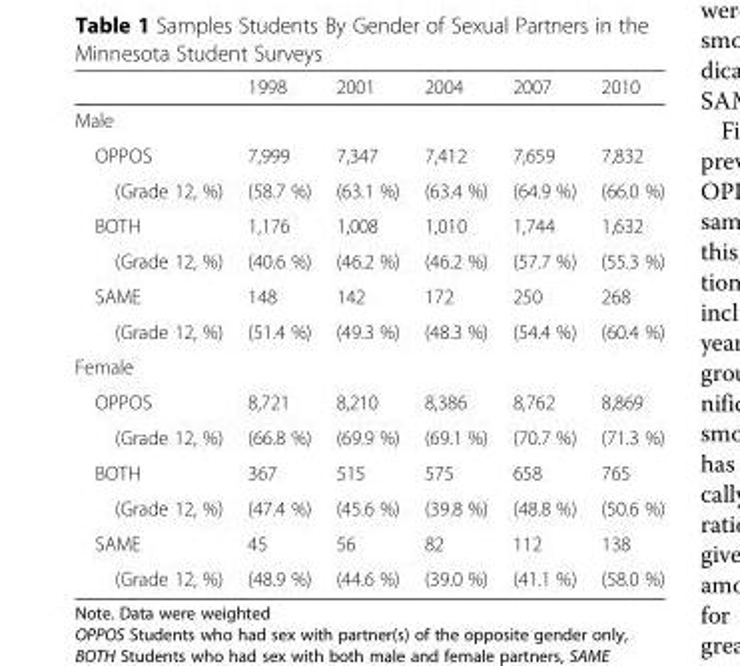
<table><thead><tr><td></td><td>1998</td><td>2001</td><td>2004</td><td>2007</td><td>2010</td></tr></thead><tbody><tr><td colspan="6">Male</td></tr><tr><td>OPPOS</td><td>7,999</td><td>7,347</td><td>7,412</td><td>7,659</td><td>7,832</td></tr><tr><td>(Grade 12, %)</td><td>(58.7 %)</td><td>(63.1 %)</td><td>(63.4 %)</td><td>(64.9 %)</td><td>(66.0 %)</td></tr><tr><td>BOTH</td><td>1,176</td><td>1,008</td><td>1,010</td><td>1,744</td><td>1,632</td></tr><tr><td>(Grade 12, %)</td><td>(40.6 %)</td><td>(46.2 %)</td><td>(46.2 %)</td><td>(57.7 %)</td><td>(55.3 %)</td></tr><tr><td>SAME</td><td>148</td><td>142</td><td>172</td><td>250</td><td>268</td></tr><tr><td>(Grade 12, %)</td><td>(51.4 %)</td><td>(49.3 %)</td><td>(48.3 %)</td><td>(54.4 %)</td><td>(60.4 %)</td></tr><tr><td colspan="6">Female</td></tr><tr><td>OPPOS</td><td>8,721</td><td>8,210</td><td>8,386</td><td>8,762</td><td>8,869</td></tr><tr><td>(Grade 12, %)</td><td>(66.8 %)</td><td>(69.9 %)</td><td>(69.1 %)</td><td>(70.7 %)</td><td>(71.3 %)</td></tr><tr><td>BOTH</td><td>367</td><td>515</td><td>575</td><td>658</td><td>765</td></tr><tr><td>(Grade 12, %)</td><td>(47.4 %)</td><td>(45.6 %)</td><td>(39.8 %)</td><td>(48.8 %)</td><td>(50.6 %)</td></tr><tr><td>SAME</td><td>45</td><td>56</td><td>82</td><td>112</td><td>138</td></tr><tr><td>(Grade 12, %)</td><td>(48.9 %)</td><td>(44.6 %)</td><td>(39.0 %)</td><td>(41.1 %)</td><td>(58.0 %)</td></tr></tbody></table>